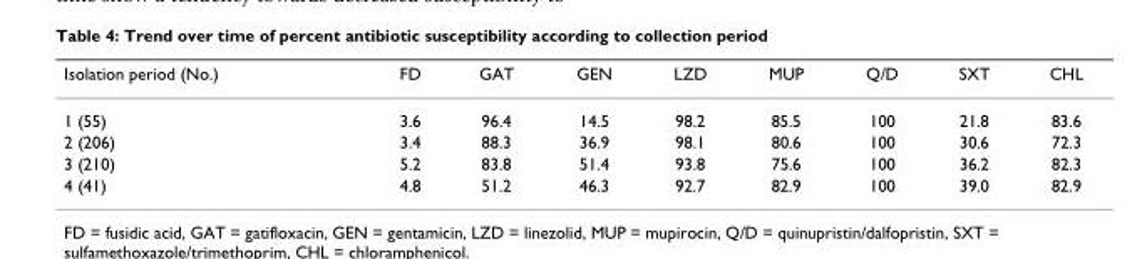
<table><thead><tr><td>Isolation period (No.)</td><td>FD</td><td>GAT</td><td>GEN</td><td>LZD</td><td>MUP</td><td>Q/D</td><td>SXT</td><td>CHL</td></tr></thead><tbody><tr><td>1 (55)</td><td>3.6</td><td>96.4</td><td>14.5</td><td>98.2</td><td>85.5</td><td>100</td><td>21.8</td><td>83.6</td></tr><tr><td>2 (206)</td><td>3.4</td><td>88.3</td><td>36.9</td><td>98.1</td><td>80.6</td><td>100</td><td>30.6</td><td>72.3</td></tr><tr><td>3 (210)</td><td>5.2</td><td>83.8</td><td>51.4</td><td>93.8</td><td>75.6</td><td>100</td><td>36.2</td><td>82.3</td></tr><tr><td>4 (41)</td><td>4.8</td><td>51.2</td><td>46.3</td><td>92.7</td><td>82.9</td><td>100</td><td>39.0</td><td>82.9</td></tr></tbody></table>